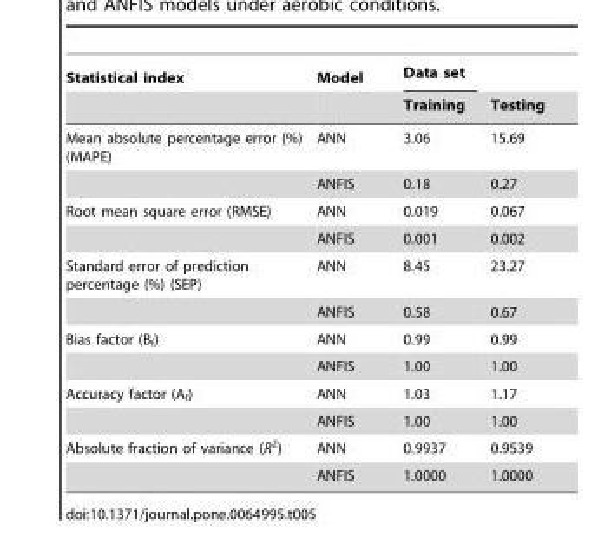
<table><thead><tr><td rowspan="2">Statistical index</td><td rowspan="2">Model</td><td rowspan="2">Data set Training</td><td rowspan="2">Testing</td></tr><tr></tr></thead><tbody><tr><td rowspan="2">Mean absolute percentage error (%) (MAPE)</td><td>ANN</td><td>3.06</td><td>15.69</td></tr><tr><td>ANFIS</td><td>0.18</td><td>0.27</td></tr><tr><td rowspan="2">Root mean square error (RMSE)</td><td>ANN</td><td>0.019</td><td>0.067</td></tr><tr><td>ANFIS</td><td>0.001</td><td>0.002</td></tr><tr><td rowspan="2">Standard error of prediction percentage (%) (SEP)</td><td>ANN</td><td>8.45</td><td>23.27</td></tr><tr><td>ANFIS</td><td>0.58</td><td>0.67</td></tr><tr><td rowspan="2">Bias factor (B<sub>f</sub>)</td><td>ANN</td><td>0.99</td><td>0.99</td></tr><tr><td>ANFIS</td><td>1.00</td><td>1.00</td></tr><tr><td rowspan="2">Accuracy factor (A<sub>f</sub>)</td><td>ANN</td><td>1.03</td><td>1.17</td></tr><tr><td>ANFIS</td><td>1.00</td><td>1.00</td></tr><tr><td rowspan="2">Absolute fraction of variance (R<sup>2</sup>)</td><td>ANN</td><td>0.9937</td><td>0.9539</td></tr><tr><td>ANFIS</td><td>1.0000</td><td>1.0000</td></tr></tbody></table>